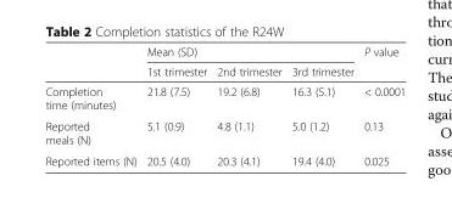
<table><thead><tr><td rowspan="2"></td><td colspan="3">Mean (SD)</td><td rowspan="2">P value</td></tr><tr><td>1st trimester</td><td>2nd trimester</td><td>3rd trimester</td></tr></thead><tbody><tr><td>Completion time (minutes)</td><td>21.8 (7.5)</td><td>19.2 (6.8)</td><td>16.3 (5.1)</td><td>&lt; 0.0001</td></tr><tr><td>Reported meals (N)</td><td>5.1 (0.9)</td><td>4.8 (1.1)</td><td>5.0 (1.2)</td><td>0.13</td></tr><tr><td>Reported items (N)</td><td>20.5 (4.0)</td><td>20.3 (4.1)</td><td>19.4 (4.0)</td><td>0.025</td></tr></tbody></table>